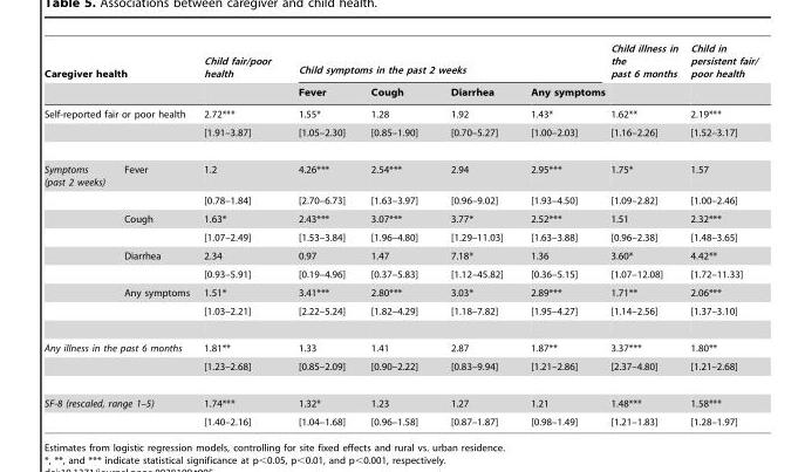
<table><thead><tr><td colspan="2">Caregiver health</td><td rowspan="2">Child fair/poor health</td><td colspan="4">Child symptoms in the past 2 weeks</td><td rowspan="2">Child illness in the past 6 months</td><td rowspan="2">Child in persistent fair/ poor health</td></tr><tr><td></td><td></td><td>Fever</td><td>Cough</td><td>Diarrhea</td><td>Any symptoms</td></tr></thead><tbody><tr><td colspan="2">Self-reported fair or poor health</td><td>2.72***</td><td>1.55*</td><td>1.28</td><td>1.92</td><td>1.43*</td><td>1.62**</td><td>2.19***</td></tr><tr><td></td><td></td><td>[1.91–3.87]</td><td>[1.05–2.30]</td><td>[0.85–1.90]</td><td>[0.70–5.27]</td><td>[1.00–2.03]</td><td>[1.16–2.26]</td><td>[1.52–3.17]</td></tr><tr><td rowspan="8">Symptoms (past 2 weeks)</td><td>Fever</td><td>1.2</td><td>4.26***</td><td>2.54***</td><td>2.94</td><td>2.95***</td><td>1.75*</td><td>1.57</td></tr><tr><td></td><td>[0.78–1.84]</td><td>[2.70–6.73]</td><td>[1.63–3.97]</td><td>[0.96–9.02]</td><td>[1.93–4.50]</td><td>[1.09–2.82]</td><td>[1.00–2.46]</td></tr><tr><td>Cough</td><td>1.63*</td><td>2.43***</td><td>3.07***</td><td>3.77*</td><td>2.52***</td><td>1.51</td><td>2.32***</td></tr><tr><td></td><td>[1.07–2.49]</td><td>[1.53–3.84]</td><td>[1.96–4.80]</td><td>[1.29–11.03]</td><td>[1.63–3.88]</td><td>[0.96–2.38]</td><td>[1.48–3.65]</td></tr><tr><td>Diarrhea</td><td>2.34</td><td>0.97</td><td>1.47</td><td>7.18*</td><td>1.36</td><td>3.60*</td><td>4.42**</td></tr><tr><td></td><td>[0.93–5.91]</td><td>[0.19–4.96]</td><td>[0.37–5.83]</td><td>[1.12–45.82]</td><td>[0.36–5.15]</td><td>[1.07–12.08]</td><td>[1.72–11.33]</td></tr><tr><td>Any symptoms</td><td>1.51*</td><td>3.41***</td><td>2.80***</td><td>3.03*</td><td>2.89***</td><td>1.71**</td><td>2.06***</td></tr><tr><td></td><td>[1.03–2.21]</td><td>[2.22–5.24]</td><td>[1.82–4.29]</td><td>[1.18–7.82]</td><td>[1.95–4.27]</td><td>[1.14–2.56]</td><td>[1.37–3.10]</td></tr><tr><td colspan="2">Any illness in the past 6 months</td><td>1.81**</td><td>1.33</td><td>1.41</td><td>2.87</td><td>1.87**</td><td>3.37***</td><td>1.80**</td></tr><tr><td></td><td></td><td>[1.23–2.68]</td><td>[0.85–2.09]</td><td>[0.90–2.22]</td><td>[0.83–9.94]</td><td>[1.21–2.86]</td><td>[2.37–4.80]</td><td>[1.21–2.68]</td></tr><tr><td colspan="2">SF-8 (rescaled, range 1–5)</td><td>1.74***</td><td>1.32*</td><td>1.23</td><td>1.27</td><td>1.21</td><td>1.48***</td><td>1.58***</td></tr><tr><td></td><td></td><td>[1.40–2.16]</td><td>[1.04–1.68]</td><td>[0.96–1.58]</td><td>[0.87–1.87]</td><td>[0.98–1.49]</td><td>[1.21–1.83]</td><td>[1.28–1.97]</td></tr></tbody></table>